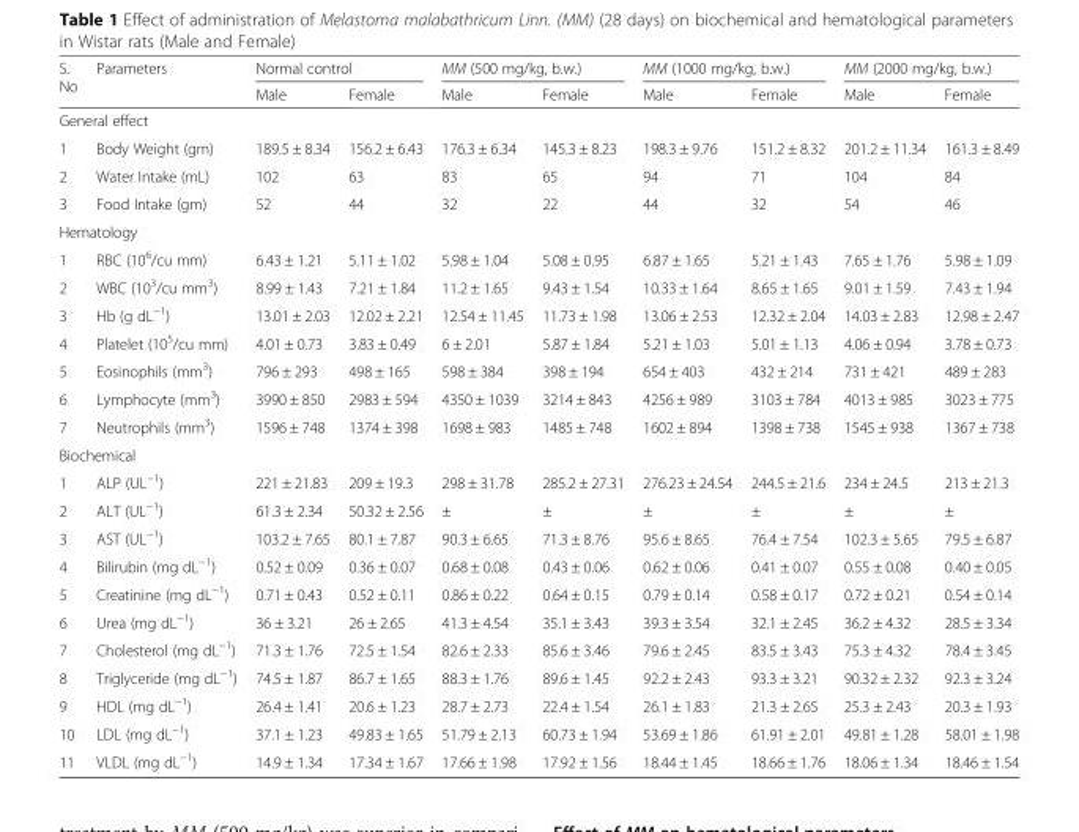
<table><thead><tr><td rowspan="2">S. No</td><td rowspan="2">Parameters</td><td colspan="2">Normal control</td><td colspan="2">MM (500 mg/kg, b.w.)</td><td colspan="2">MM (1000 mg/kg, b.w.)</td><td colspan="2">MM (2000 mg/kg, b.w.)</td></tr><tr><td>Male</td><td>Female</td><td>Male</td><td>Female</td><td>Male</td><td>Female</td><td>Male</td><td>Female</td></tr></thead><tbody><tr><td colspan="10">General effect</td></tr><tr><td>1</td><td>Body Weight (gm)</td><td>189.5 ± 8.34</td><td>156.2 ± 6.43</td><td>176.3 ± 6.34</td><td>145.3 ± 8.23</td><td>198.3 ± 9.76</td><td>151.2 ± 8.32</td><td>201.2 ± 11.34</td><td>161.3 ± 8.49</td></tr><tr><td>2</td><td>Water Intake (mL)</td><td>102</td><td>63</td><td>83</td><td>65</td><td>94</td><td>71</td><td>104</td><td>84</td></tr><tr><td>3</td><td>Food Intake (gm)</td><td>52</td><td>44</td><td>32</td><td>22</td><td>44</td><td>32</td><td>54</td><td>46</td></tr><tr><td colspan="10">Hematology</td></tr><tr><td>1</td><td>RBC (106/cu mm)</td><td>6.43 ± 1.21</td><td>5.11 ± 1.02</td><td>5.98 ± 1.04</td><td>5.08 ± 0.95</td><td>6.87 ± 1.65</td><td>5.21 ± 1.43</td><td>7.65 ± 1.76</td><td>5.98 ± 1.09</td></tr><tr><td>2</td><td>WBC (103/cu mm3)</td><td>8.99 ± 1.43</td><td>7.21 ± 1.84</td><td>11.2 ± 1.65</td><td>9.43 ± 1.54</td><td>10.33 ± 1.64</td><td>8.65 ± 1.65</td><td>9.01 ± 1.59</td><td>7.43 ± 1.94</td></tr><tr><td>3</td><td>Hb (g dL−1)</td><td>13.01 ± 2.03</td><td>12.02 ± 2.21</td><td>12.54 ± 11.45</td><td>11.73 ± 1.98</td><td>13.06 ± 2.53</td><td>12.32 ± 2.04</td><td>14.03 ± 2.83</td><td>12.98 ± 2.47</td></tr><tr><td>4</td><td>Platelet (105/cu mm)</td><td>4.01 ± 0.73</td><td>3.83 ± 0.49</td><td>6 ± 2.01</td><td>5.87 ± 1.84</td><td>5.21 ± 1.03</td><td>5.01 ± 1.13</td><td>4.06 ± 0.94</td><td>3.78 ± 0.73</td></tr><tr><td>5</td><td>Eosinophils (mm3)</td><td>796 ± 293</td><td>498 ± 165</td><td>598 ± 384</td><td>398 ± 194</td><td>654 ± 403</td><td>432 ± 214</td><td>731 ± 421</td><td>489 ± 283</td></tr><tr><td>6</td><td>Lymphocyte (mm3)</td><td>3990 ± 850</td><td>2983 ± 594</td><td>4350 ± 1039</td><td>3214 ± 843</td><td>4256 ± 989</td><td>3103 ± 784</td><td>4013 ± 985</td><td>3023 ± 775</td></tr><tr><td>7</td><td>Neutrophils (mm3)</td><td>1596 ± 748</td><td>1374 ± 398</td><td>1698 ± 983</td><td>1485 ± 748</td><td>1602 ± 894</td><td>1398 ± 738</td><td>1545 ± 938</td><td>1367 ± 738</td></tr><tr><td colspan="10">Biochemical</td></tr><tr><td>1</td><td>ALP (UL−1)</td><td>221 ± 21.83</td><td>209 ± 19.3</td><td>298 ± 31.78</td><td>285.2 ± 27.31</td><td>276.23 ± 24.54</td><td>244.5 ± 21.6</td><td>234 ± 24.5</td><td>213 ± 21.3</td></tr><tr><td>2</td><td>ALT (UL−1)</td><td>61.3 ± 2.34</td><td>50.32 ± 2.56</td><td>±</td><td>±</td><td>±</td><td>±</td><td>±</td><td>±</td></tr><tr><td>3</td><td>AST (UL−1)</td><td>103.2 ± 7.65</td><td>80.1 ± 7.87</td><td>90.3 ± 6.65</td><td>71.3 ± 8.76</td><td>95.6 ± 8.65</td><td>76.4 ± 7.54</td><td>102.3 ± 5.65</td><td>79.5 ± 6.87</td></tr><tr><td>4</td><td>Bilirubin (mg dL−1)</td><td>0.52 ± 0.09</td><td>0.36 ± 0.07</td><td>0.68 ± 0.08</td><td>0.43 ± 0.06</td><td>0.62 ± 0.06</td><td>0.41 ± 0.07</td><td>0.55 ± 0.08</td><td>0.40 ± 0.05</td></tr><tr><td>5</td><td>Creatinine (mg dL−1)</td><td>0.71 ± 0.43</td><td>0.52 ± 0.11</td><td>0.86 ± 0.22</td><td>0.64 ± 0.15</td><td>0.79 ± 0.14</td><td>0.58 ± 0.17</td><td>0.72 ± 0.21</td><td>0.54 ± 0.14</td></tr><tr><td>6</td><td>Urea (mg dL−1)</td><td>36 ± 3.21</td><td>26 ± 2.65</td><td>41.3 ± 4.54</td><td>35.1 ± 3.43</td><td>39.3 ± 3.54</td><td>32.1 ± 2.45</td><td>36.2 ± 4.32</td><td>28.5 ± 3.34</td></tr><tr><td>7</td><td>Cholesterol (mg dL−1)</td><td>71.3 ± 1.76</td><td>72.5 ± 1.54</td><td>82.6 ± 2.33</td><td>85.6 ± 3.46</td><td>79.6 ± 2.45</td><td>83.5 ± 3.43</td><td>75.3 ± 4.32</td><td>78.4 ± 3.45</td></tr><tr><td>8</td><td>Triglyceride (mg dL−1)</td><td>74.5 ± 1.87</td><td>86.7 ± 1.65</td><td>88.3 ± 1.76</td><td>89.6 ± 1.45</td><td>92.2 ± 2.43</td><td>93.3 ± 3.21</td><td>90.32 ± 2.32</td><td>92.3 ± 3.24</td></tr><tr><td>9</td><td>HDL (mg dL−1)</td><td>26.4 ± 1.41</td><td>20.6 ± 1.23</td><td>28.7 ± 2.73</td><td>22.4 ± 1.54</td><td>26.1 ± 1.83</td><td>21.3 ± 2.65</td><td>25.3 ± 2.43</td><td>20.3 ± 1.93</td></tr><tr><td>10</td><td>LDL (mg dL−1)</td><td>37.1 ± 1.23</td><td>49.83 ± 1.65</td><td>51.79 ± 2.13</td><td>60.73 ± 1.94</td><td>53.69 ± 1.86</td><td>61.91 ± 2.01</td><td>49.81 ± 1.28</td><td>58.01 ± 1.98</td></tr><tr><td>11</td><td>VLDL (mg dL−1)</td><td>14.9 ± 1.34</td><td>17.34 ± 1.67</td><td>17.66 ± 1.98</td><td>17.92 ± 1.56</td><td>18.44 ± 1.45</td><td>18.66 ± 1.76</td><td>18.06 ± 1.34</td><td>18.46 ± 1.54</td></tr></tbody></table>